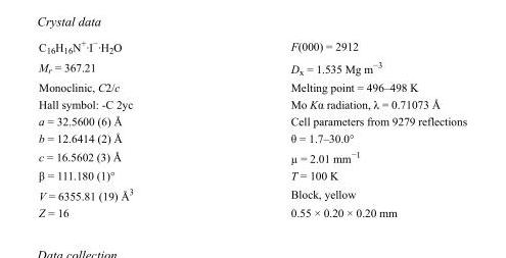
<table><tbody><tr><td>C<sub>16</sub>H<sub>16</sub>N<sup>+</sup>·I<sup>−</sup>·H<sub>2</sub>O</td><td>F(000) = 2912</td></tr><tr><td>M<sub>r</sub> = 367.21</td><td>D<sub>x</sub> = 1.535 Mg m<sup>−3</sup></td></tr><tr><td>Monoclinic, C2/c</td><td>Melting point = 496–498 K</td></tr><tr><td>Hall symbol: -C 2yc</td><td>Mo Kα radiation, λ = 0.71073 Å</td></tr><tr><td>a = 32.5600 (6) Å</td><td>Cell parameters from 9279 reflections</td></tr><tr><td>b = 12.6414 (2) Å</td><td>θ = 1.7–30.0°</td></tr><tr><td>c = 16.5602 (3) Å</td><td>µ = 2.01 mm<sup>−1</sup></td></tr><tr><td>β = 111.180 (1)°</td><td>T = 100 K</td></tr><tr><td>V = 6355.81 (19) Å<sup>3</sup></td><td>Block, yellow</td></tr><tr><td>Z = 16</td><td>0.55 × 0.20 × 0.20 mm</td></tr></tbody></table>